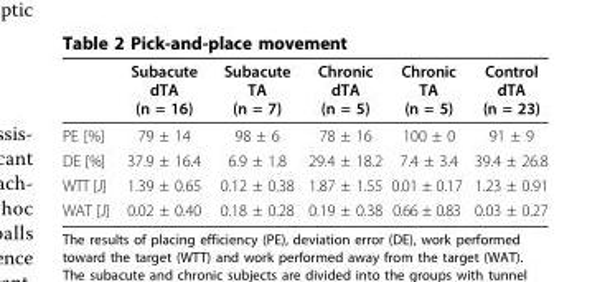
<table><thead><tr><td></td><td>Subacute dTA (n = 16)</td><td>Subacute TA (n = 7)</td><td>Chronic dTA (n = 5)</td><td>Chronic TA (n = 5)</td><td>Control dTA (n = 23)</td></tr></thead><tbody><tr><td>PE [%]</td><td>79 ± 14</td><td>98 ± 6</td><td>78 ± 16</td><td>100 ± 0</td><td>91 ± 9</td></tr><tr><td>DE [%]</td><td>37.9 ± 16.4</td><td>6.9 ± 1.8</td><td>29.4 ± 18.2</td><td>7.4 ± 3.4</td><td>39.4 ± 26.8</td></tr><tr><td>WTT [J]</td><td>1.39 ± 0.65</td><td>0.12 ± 0.38</td><td>1.87 ± 1.55</td><td>0.01 ± 0.17</td><td>1.23 ± 0.91</td></tr><tr><td>WAT [J]</td><td>0.02 ± 0.40</td><td>0.18 ± 0.28</td><td>0.19 ± 0.38</td><td>0.66 ± 0.83</td><td>0.03 ± 0.27</td></tr></tbody></table>